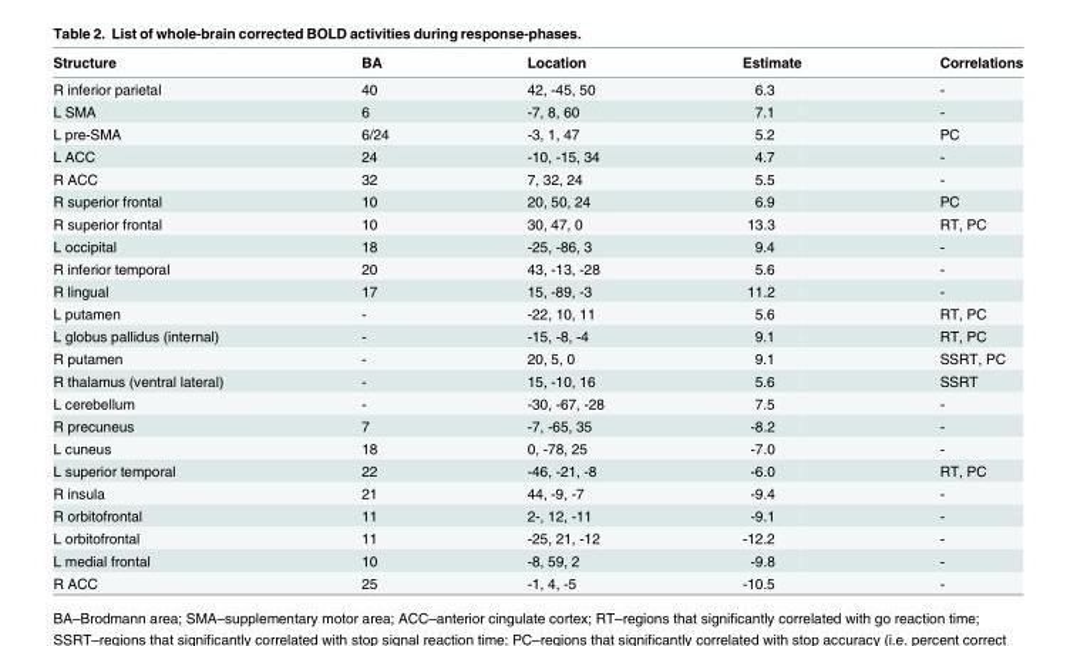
<table><thead><tr><td>Structure</td><td>BA</td><td>Location</td><td>Estimate</td><td>Correlations</td></tr></thead><tbody><tr><td>R inferior parietal</td><td>40</td><td>42, -45, 50</td><td>6.3</td><td>-</td></tr><tr><td>L SMA</td><td>6</td><td>-7, 8, 60</td><td>7.1</td><td>-</td></tr><tr><td>L pre-SMA</td><td>6/24</td><td>-3, 1, 47</td><td>5.2</td><td>PC</td></tr><tr><td>L ACC</td><td>24</td><td>-10, -15, 34</td><td>4.7</td><td>-</td></tr><tr><td>R ACC</td><td>32</td><td>7, 32, 24</td><td>5.5</td><td>-</td></tr><tr><td>R superior frontal</td><td>10</td><td>20, 50, 24</td><td>6.9</td><td>PC</td></tr><tr><td>R superior frontal</td><td>10</td><td>30, 47, 0</td><td>13.3</td><td>RT, PC</td></tr><tr><td>L occipital</td><td>18</td><td>-25, -86, 3</td><td>9.4</td><td>-</td></tr><tr><td>R inferior temporal</td><td>20</td><td>43, -13, -28</td><td>5.6</td><td>-</td></tr><tr><td>R lingual</td><td>17</td><td>15, -89, -3</td><td>11.2</td><td>-</td></tr><tr><td>L putamen</td><td>-</td><td>-22, 10, 11</td><td>5.6</td><td>RT, PC</td></tr><tr><td>L globus pallidus (internal)</td><td>-</td><td>-15, -8, -4</td><td>9.1</td><td>RT, PC</td></tr><tr><td>R putamen</td><td>-</td><td>20, 5, 0</td><td>9.1</td><td>SSRT, PC</td></tr><tr><td>R thalamus (ventral lateral)</td><td>-</td><td>15, -10, 16</td><td>5.6</td><td>SSRT</td></tr><tr><td>L cerebellum</td><td>-</td><td>-30, -67, -28</td><td>7.5</td><td>-</td></tr><tr><td>R precuneus</td><td>7</td><td>-7, -65, 35</td><td>-8.2</td><td>-</td></tr><tr><td>L cuneus</td><td>18</td><td>0, -78, 25</td><td>-7.0</td><td>-</td></tr><tr><td>L superior temporal</td><td>22</td><td>-46, -21, -8</td><td>-6.0</td><td>RT, PC</td></tr><tr><td>R insula</td><td>21</td><td>44, -9, -7</td><td>-9.4</td><td>-</td></tr><tr><td>R orbitofrontal</td><td>11</td><td>2-, 12, -11</td><td>-9.1</td><td>-</td></tr><tr><td>L orbitofrontal</td><td>11</td><td>-25, 21, -12</td><td>-12.2</td><td>-</td></tr><tr><td>L medial frontal</td><td>10</td><td>-8, 59, 2</td><td>-9.8</td><td>-</td></tr><tr><td>R ACC</td><td>25</td><td>-1, 4, -5</td><td>-10.5</td><td>-</td></tr></tbody></table>